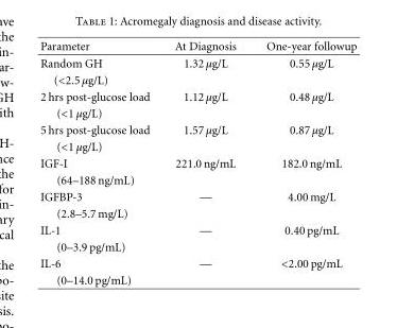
<table><thead><tr><td>Parameter</td><td>At Diagnosis</td><td>One-year followup</td></tr></thead><tbody><tr><td>Random GH</td><td>1.32 µg/L</td><td>0.55 µg/L</td></tr><tr><td colspan="3">(&lt;2.5 µg/L)</td></tr><tr><td>2 hrs post-glucose load</td><td>1.12 µg/L</td><td>0.48 µg/L</td></tr><tr><td colspan="3">(&lt;1 µg/L)</td></tr><tr><td>5 hrs post-glucose load</td><td>1.57 µg/L</td><td>0.87 µg/L</td></tr><tr><td colspan="3">(&lt;1 µg/L)</td></tr><tr><td>IGF-I</td><td>221.0 ng/mL</td><td>182.0 ng/mL</td></tr><tr><td colspan="3">(64–188 ng/mL)</td></tr><tr><td>IGFBP-3</td><td>—</td><td>4.00 mg/L</td></tr><tr><td colspan="3">(2.8–5.7 mg/L)</td></tr><tr><td>IL-1</td><td>—</td><td>0.40 pg/mL</td></tr><tr><td colspan="3">(0–3.9 pg/mL)</td></tr><tr><td>IL-6</td><td>—</td><td>&lt;2.00 pg/mL</td></tr><tr><td>(0–14.0 pg/mL)</td><td></td><td></td></tr></tbody></table>